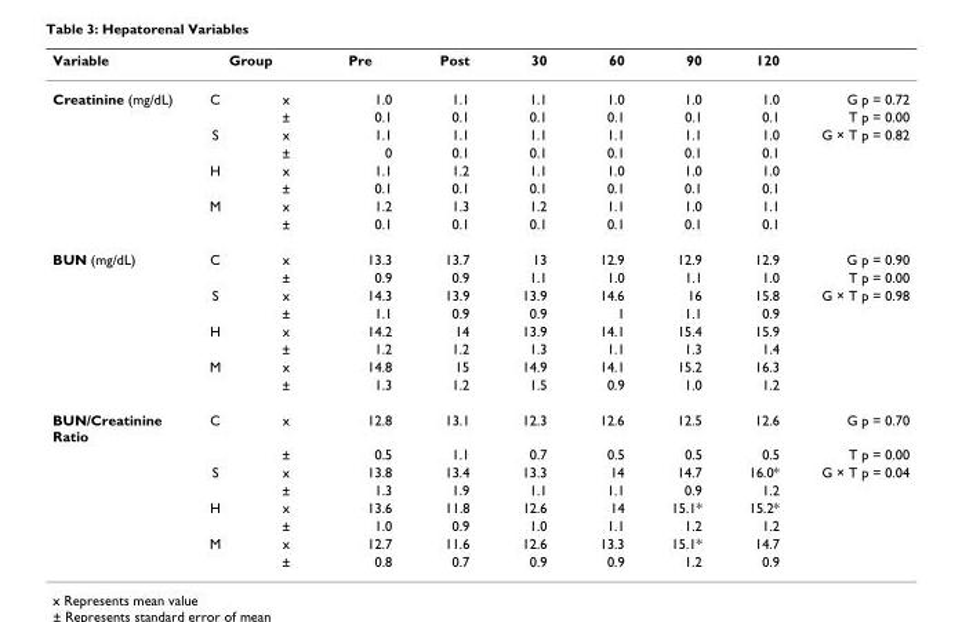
<table><thead><tr><td rowspan="2">Variable Creatinine (mg/dL)</td><td colspan="2">Group</td><td rowspan="2">Pre 1.0</td><td rowspan="2">Post 1.1</td><td rowspan="2">30 1.1</td><td rowspan="2">60 1.0</td><td rowspan="2">90 1.0</td><td rowspan="2">120 1.0</td><td rowspan="2">G p = 0.72</td></tr><tr><td>C</td><td>x</td></tr></thead><tbody><tr><td></td><td></td><td>±</td><td>0.1</td><td>0.1</td><td>0.1</td><td>0.1</td><td>0.1</td><td>0.1</td><td>T p = 0.00</td></tr><tr><td></td><td>S</td><td>x</td><td>1.1</td><td>1.1</td><td>1.1</td><td>1.1</td><td>1.1</td><td>1.0</td><td>G × T p = 0.82</td></tr><tr><td></td><td></td><td>±</td><td>0</td><td>0.1</td><td>0.1</td><td>0.1</td><td>0.1</td><td>0.1</td><td></td></tr><tr><td></td><td>H</td><td>x</td><td>1.1</td><td>1.2</td><td>1.1</td><td>1.0</td><td>1.0</td><td>1.0</td><td></td></tr><tr><td></td><td></td><td>±</td><td>0.1</td><td>0.1</td><td>0.1</td><td>0.1</td><td>0.1</td><td>0.1</td><td></td></tr><tr><td></td><td>M</td><td>x</td><td>1.2</td><td>1.3</td><td>1.2</td><td>1.1</td><td>1.0</td><td>1.1</td><td></td></tr><tr><td></td><td></td><td>±</td><td>0.1</td><td>0.1</td><td>0.1</td><td>0.1</td><td>0.1</td><td>0.1</td><td></td></tr><tr><td rowspan="8">BUN (mg/dL)</td><td>C</td><td>x</td><td>13.3</td><td>13.7</td><td>13</td><td>12.9</td><td>12.9</td><td>12.9</td><td>G p = 0.90</td></tr><tr><td></td><td>±</td><td>0.9</td><td>0.9</td><td>1.1</td><td>1.0</td><td>1.1</td><td>1.0</td><td>T p = 0.00</td></tr><tr><td>S</td><td>x</td><td>14.3</td><td>13.9</td><td>13.9</td><td>14.6</td><td>16</td><td>15.8</td><td>G × T p = 0.98</td></tr><tr><td></td><td>±</td><td>1.1</td><td>0.9</td><td>0.9</td><td>1</td><td>1.1</td><td>0.9</td><td></td></tr><tr><td>H</td><td>x</td><td>14.2</td><td>14</td><td>13.9</td><td>14.1</td><td>15.4</td><td>15.9</td><td></td></tr><tr><td></td><td>±</td><td>1.2</td><td>1.2</td><td>1.3</td><td>1.1</td><td>1.3</td><td>1.4</td><td></td></tr><tr><td>M</td><td>x</td><td>14.8</td><td>15</td><td>14.9</td><td>14.1</td><td>15.2</td><td>16.3</td><td></td></tr><tr><td></td><td>±</td><td>1.3</td><td>1.2</td><td>1.5</td><td>0.9</td><td>1.0</td><td>1.2</td><td></td></tr><tr><td rowspan="8">BUN/Creatinine Ratio</td><td>C</td><td>x</td><td>12.8</td><td>13.1</td><td>12.3</td><td>12.6</td><td>12.5</td><td>12.6</td><td>G p = 0.70</td></tr><tr><td></td><td>±</td><td>0.5</td><td>1.1</td><td>0.7</td><td>0.5</td><td>0.5</td><td>0.5</td><td>T p = 0.00</td></tr><tr><td>S</td><td>x</td><td>13.8</td><td>13.4</td><td>13.3</td><td>14</td><td>14.7</td><td>16.0*</td><td>G × T p = 0.04</td></tr><tr><td></td><td>±</td><td>1.3</td><td>1.9</td><td>1.1</td><td>1.1</td><td>0.9</td><td>1.2</td><td></td></tr><tr><td>H</td><td>x</td><td>13.6</td><td>11.8</td><td>12.6</td><td>14</td><td>15.1*</td><td>15.2*</td><td></td></tr><tr><td></td><td>±</td><td>1.0</td><td>0.9</td><td>1.0</td><td>1.1</td><td>1.2</td><td>1.2</td><td></td></tr><tr><td>M</td><td>x</td><td>12.7</td><td>11.6</td><td>12.6</td><td>13.3</td><td>15.1*</td><td>14.7</td><td></td></tr><tr><td></td><td>±</td><td>0.8</td><td>0.7</td><td>0.9</td><td>0.9</td><td>1.2</td><td>0.9</td><td></td></tr></tbody></table>